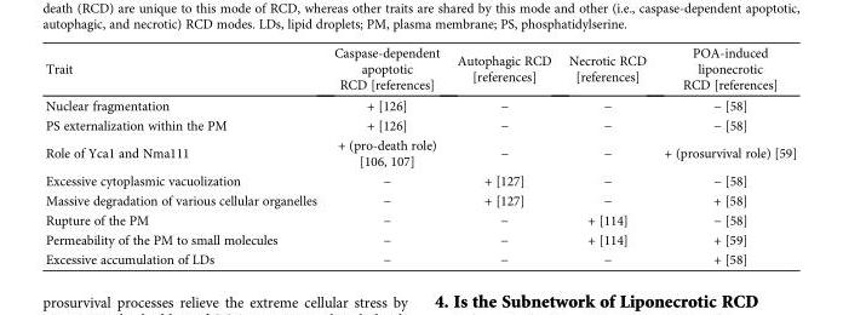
<table><thead><tr><td>Trait</td><td>Caspase-dependent apoptotic RCD [references]</td><td>Autophagic RCD [references]</td><td>Necrotic RCD [references]</td><td>POA-induced liponecrotic RCD [references]</td></tr></thead><tbody><tr><td>Nuclear fragmentation</td><td>+ [126]</td><td>−</td><td>−</td><td>− [58]</td></tr><tr><td>PS externalization within the PM</td><td>+ [126]</td><td>−</td><td>−</td><td>− [58]</td></tr><tr><td>Role of Yca1 and Nma111</td><td>+ (pro-death role) [106, 107]</td><td>−</td><td>−</td><td>+ (prosurvival role) [59]</td></tr><tr><td>Excessive cytoplasmic vacuolization</td><td>−</td><td>+ [127]</td><td>−</td><td>− [58]</td></tr><tr><td>Massive degradation of various cellular organelles</td><td>−</td><td>+ [127]</td><td>−</td><td>+ [58]</td></tr><tr><td>Rupture of the PM</td><td>−</td><td>−</td><td>+ [114]</td><td>− [58]</td></tr><tr><td>Permeability of the PM to small molecules</td><td>−</td><td>−</td><td>+ [114]</td><td>+ [59]</td></tr><tr><td>Excessive accumulation of LDs</td><td>−</td><td>−</td><td>−</td><td>+ [58]</td></tr></tbody></table>